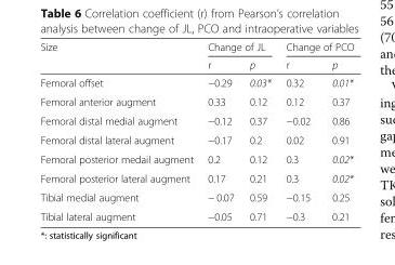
<table><thead><tr><td rowspan="2">Size</td><td colspan="2">Change of JL</td><td colspan="2">Change of PCO</td></tr><tr><td>r</td><td>p</td><td>r</td><td>p</td></tr></thead><tbody><tr><td>Femoral offset</td><td>−0.29</td><td>0.03*</td><td>0.32</td><td>0.01*</td></tr><tr><td>Femoral anterior augment</td><td>0.33</td><td>0.12</td><td>0.12</td><td>0.37</td></tr><tr><td>Femoral distal medial augment</td><td>−0.12</td><td>0.37</td><td>−0.02</td><td>0.86</td></tr><tr><td>Femoral distal lateral augment</td><td>−0.17</td><td>0.2</td><td>0.02</td><td>0.91</td></tr><tr><td>Femoral posterior medail augment</td><td>0.2</td><td>0.12</td><td>0.3</td><td>0.02*</td></tr><tr><td>Femoral posterior lateral augment</td><td>0.17</td><td>0.21</td><td>0.3</td><td>0.02*</td></tr><tr><td>Tibial medial augment</td><td>− 0.07</td><td>0.59</td><td>−0.15</td><td>0.25</td></tr><tr><td>Tibial lateral augment</td><td>−0.05</td><td>0.71</td><td>−0.3</td><td>0.21</td></tr></tbody></table>